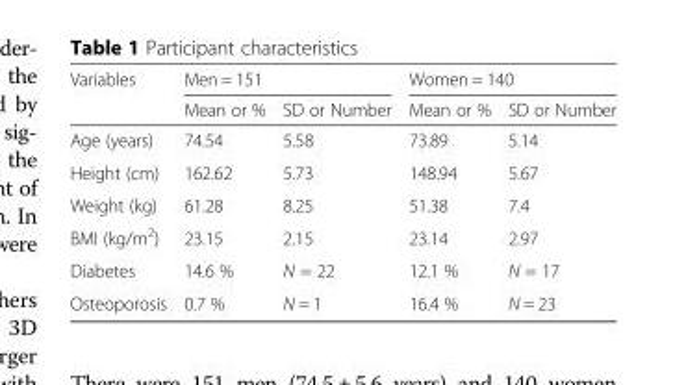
<table><thead><tr><td rowspan="2">Variables</td><td colspan="2">Men = 151</td><td colspan="2">Women = 140</td></tr><tr><td>Mean or %</td><td>SD or Number</td><td>Mean or %</td><td>SD or Number</td></tr></thead><tbody><tr><td>Age (years)</td><td>74.54</td><td>5.58</td><td>73.89</td><td>5.14</td></tr><tr><td>Height (cm)</td><td>162.62</td><td>5.73</td><td>148.94</td><td>5.67</td></tr><tr><td>Weight (kg)</td><td>61.28</td><td>8.25</td><td>51.38</td><td>7.4</td></tr><tr><td>BMI (kg/m<sup>2</sup>)</td><td>23.15</td><td>2.15</td><td>23.14</td><td>2.97</td></tr><tr><td>Diabetes</td><td>14.6 %</td><td>N = 22</td><td>12.1 %</td><td>N = 17</td></tr><tr><td>Osteoporosis</td><td>0.7 %</td><td>N = 1</td><td>16.4 %</td><td>N = 23</td></tr></tbody></table>